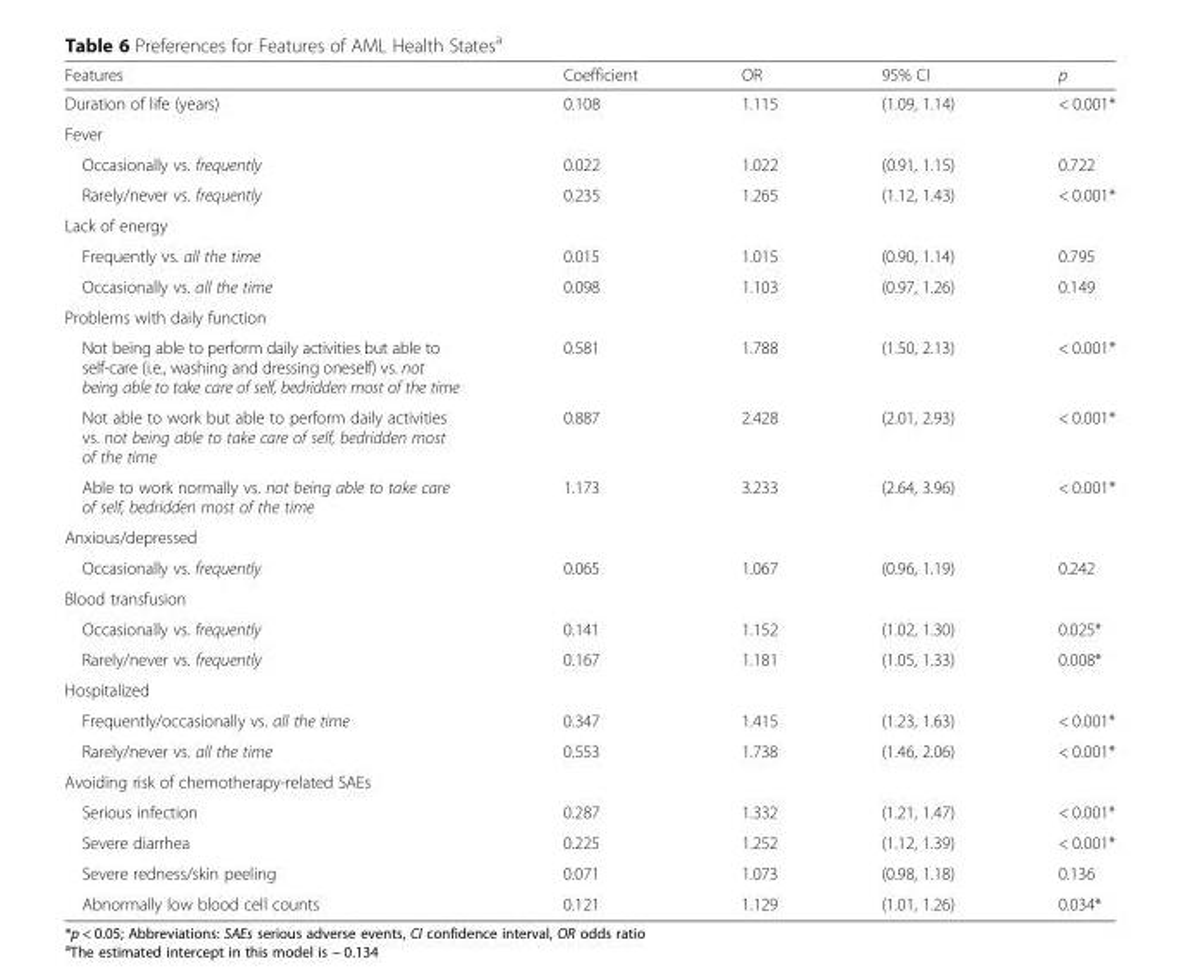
<table><thead><tr><td>Features</td><td>Coefficient</td><td>OR</td><td>95% CI</td><td>p</td></tr></thead><tbody><tr><td>Duration of life (years)</td><td>0.108</td><td>1.115</td><td>(1.09, 1.14)</td><td>&lt; 0.001*</td></tr><tr><td colspan="5">Fever</td></tr><tr><td>Occasionally vs. frequently</td><td>0.022</td><td>1.022</td><td>(0.91, 1.15)</td><td>0.722</td></tr><tr><td>Rarely/never vs. frequently</td><td>0.235</td><td>1.265</td><td>(1.12, 1.43)</td><td>&lt; 0.001*</td></tr><tr><td colspan="5">Lack of energy</td></tr><tr><td>Frequently vs. all the time</td><td>0.015</td><td>1.015</td><td>(0.90, 1.14)</td><td>0.795</td></tr><tr><td>Occasionally vs. all the time</td><td>0.098</td><td>1.103</td><td>(0.97, 1.26)</td><td>0.149</td></tr><tr><td colspan="5">Problems with daily function</td></tr><tr><td>Not being able to perform daily activities but able to self-care (i.e., washing and dressing oneself) vs. not being able to take care of self, bedridden most of the time</td><td>0.581</td><td>1.788</td><td>(1.50, 2.13)</td><td>&lt; 0.001*</td></tr><tr><td>Not able to work but able to perform daily activities vs. not being able to take care of self, bedridden most of the time</td><td>0.887</td><td>2.428</td><td>(2.01, 2.93)</td><td>&lt; 0.001*</td></tr><tr><td>Able to work normally vs. not being able to take care of self, bedridden most of the time</td><td>1.173</td><td>3.233</td><td>(2.64, 3.96)</td><td>&lt; 0.001*</td></tr><tr><td colspan="5">Anxious/depressed</td></tr><tr><td>Occasionally vs. frequently</td><td>0.065</td><td>1.067</td><td>(0.96, 1.19)</td><td>0.242</td></tr><tr><td colspan="5">Blood transfusion</td></tr><tr><td>Occasionally vs. frequently</td><td>0.141</td><td>1.152</td><td>(1.02, 1.30)</td><td>0.025*</td></tr><tr><td>Rarely/never vs. frequently</td><td>0.167</td><td>1.181</td><td>(1.05, 1.33)</td><td>0.008*</td></tr><tr><td colspan="5">Hospitalized</td></tr><tr><td>Frequently/occasionally vs. all the time</td><td>0.347</td><td>1.415</td><td>(1.23, 1.63)</td><td>&lt; 0.001*</td></tr><tr><td>Rarely/never vs. all the time</td><td>0.553</td><td>1.738</td><td>(1.46, 2.06)</td><td>&lt; 0.001*</td></tr><tr><td colspan="5">Avoiding risk of chemotherapy-related SAEs</td></tr><tr><td>Serious infection</td><td>0.287</td><td>1.332</td><td>(1.21, 1.47)</td><td>&lt; 0.001*</td></tr><tr><td>Severe diarrhea</td><td>0.225</td><td>1.252</td><td>(1.12, 1.39)</td><td>&lt; 0.001*</td></tr><tr><td>Severe redness/skin peeling</td><td>0.071</td><td>1.073</td><td>(0.98, 1.18)</td><td>0.136</td></tr><tr><td>Abnormally low blood cell counts</td><td>0.121</td><td>1.129</td><td>(1.01, 1.26)</td><td>0.034*</td></tr></tbody></table>